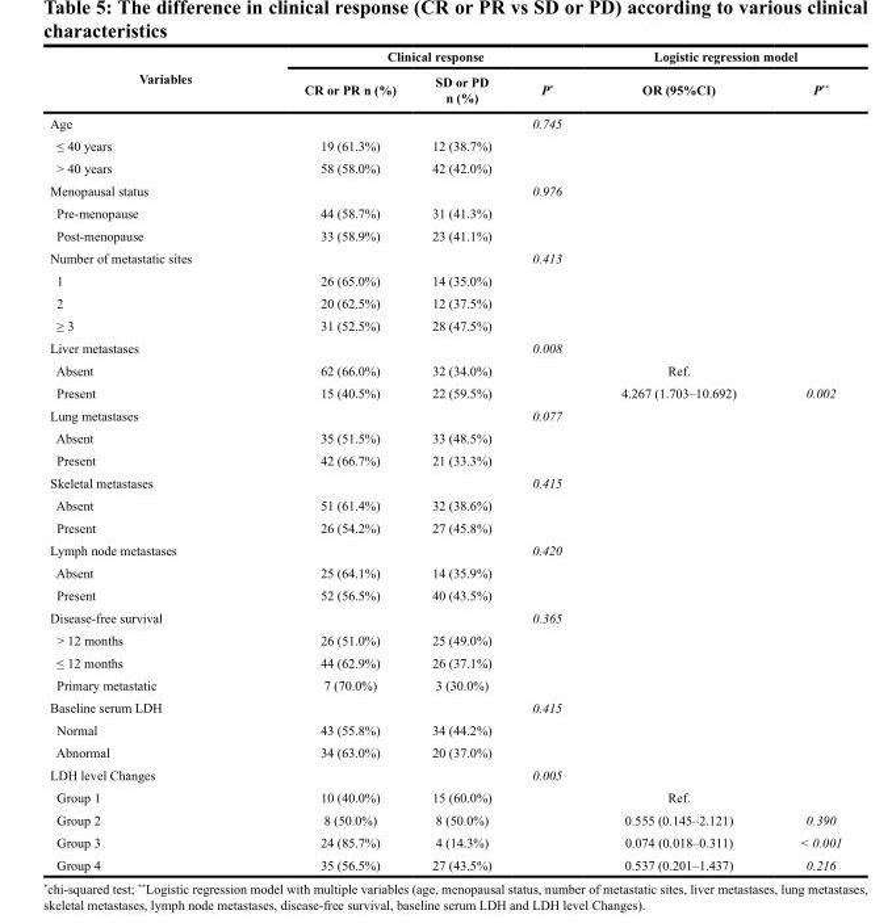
<table><thead><tr><td rowspan="2">Variables</td><td colspan="3">Clinical response</td><td colspan="2">Logistic regression model</td></tr><tr><td>CR or PR n (%)</td><td>SD or PD n (%)</td><td>P*</td><td>OR (95%CI)</td><td>P**</td></tr></thead><tbody><tr><td>Age</td><td></td><td></td><td>0.745</td><td></td><td></td></tr><tr><td>≤ 40 years</td><td>19 (61.3%)</td><td>12 (38.7%)</td><td></td><td></td><td></td></tr><tr><td>&gt; 40 years</td><td>58 (58.0%)</td><td>42 (42.0%)</td><td></td><td></td><td></td></tr><tr><td>Menopausal status</td><td></td><td></td><td>0.976</td><td></td><td></td></tr><tr><td>Pre-menopause</td><td>44 (58.7%)</td><td>31 (41.3%)</td><td></td><td></td><td></td></tr><tr><td>Post-menopause</td><td>33 (58.9%)</td><td>23 (41.1%)</td><td></td><td></td><td></td></tr><tr><td>Number of metastatic sites</td><td></td><td></td><td>0.413</td><td></td><td></td></tr><tr><td>1</td><td>26 (65.0%)</td><td>14 (35.0%)</td><td></td><td></td><td></td></tr><tr><td>2</td><td>20 (62.5%)</td><td>12 (37.5%)</td><td></td><td></td><td></td></tr><tr><td>≥ 3</td><td>31 (52.5%)</td><td>28 (47.5%)</td><td></td><td></td><td></td></tr><tr><td>Liver metastases</td><td></td><td></td><td>0.008</td><td></td><td></td></tr><tr><td>Absent</td><td>62 (66.0%)</td><td>32 (34.0%)</td><td></td><td>Ref.</td><td></td></tr><tr><td>Present</td><td>15 (40.5%)</td><td>22 (59.5%)</td><td></td><td>4.267 (1.703–10.692)</td><td>0.002</td></tr><tr><td>Lung metastases</td><td></td><td></td><td>0.077</td><td></td><td></td></tr><tr><td>Absent</td><td>35 (51.5%)</td><td>33 (48.5%)</td><td></td><td></td><td></td></tr><tr><td>Present</td><td>42 (66.7%)</td><td>21 (33.3%)</td><td></td><td></td><td></td></tr><tr><td>Skeletal metastases</td><td></td><td></td><td>0.415</td><td></td><td></td></tr><tr><td>Absent</td><td>51 (61.4%)</td><td>32 (38.6%)</td><td></td><td></td><td></td></tr><tr><td>Present</td><td>26 (54.2%)</td><td>27 (45.8%)</td><td></td><td></td><td></td></tr><tr><td>Lymph node metastases</td><td></td><td></td><td>0.420</td><td></td><td></td></tr><tr><td>Absent</td><td>25 (64.1%)</td><td>14 (35.9%)</td><td></td><td></td><td></td></tr><tr><td>Present</td><td>52 (56.5%)</td><td>40 (43.5%)</td><td></td><td></td><td></td></tr><tr><td>Disease-free survival</td><td></td><td></td><td>0.365</td><td></td><td></td></tr><tr><td>&gt; 12 months</td><td>26 (51.0%)</td><td>25 (49.0%)</td><td></td><td></td><td></td></tr><tr><td>≤ 12 months</td><td>44 (62.9%)</td><td>26 (37.1%)</td><td></td><td></td><td></td></tr><tr><td>Primary metastatic</td><td>7 (70.0%)</td><td>3 (30.0%)</td><td></td><td></td><td></td></tr><tr><td>Baseline serum LDH</td><td></td><td></td><td>0.415</td><td></td><td></td></tr><tr><td>Normal</td><td>43 (55.8%)</td><td>34 (44.2%)</td><td></td><td></td><td></td></tr><tr><td>Abnormal</td><td>34 (63.0%)</td><td>20 (37.0%)</td><td></td><td></td><td></td></tr><tr><td>LDH level Changes</td><td></td><td></td><td>0.005</td><td></td><td></td></tr><tr><td>Group 1</td><td>10 (40.0%)</td><td>15 (60.0%)</td><td></td><td>Ref.</td><td></td></tr><tr><td>Group 2</td><td>8 (50.0%)</td><td>8 (50.0%)</td><td></td><td>0.555 (0.145–2.121)</td><td>0.390</td></tr><tr><td>Group 3</td><td>24 (85.7%)</td><td>4 (14.3%)</td><td></td><td>0.074 (0.018–0.311)</td><td>&lt; 0.001</td></tr><tr><td>Group 4</td><td>35 (56.5%)</td><td>27 (43.5%)</td><td></td><td>0.537 (0.201–1.437)</td><td>0.216</td></tr></tbody></table>